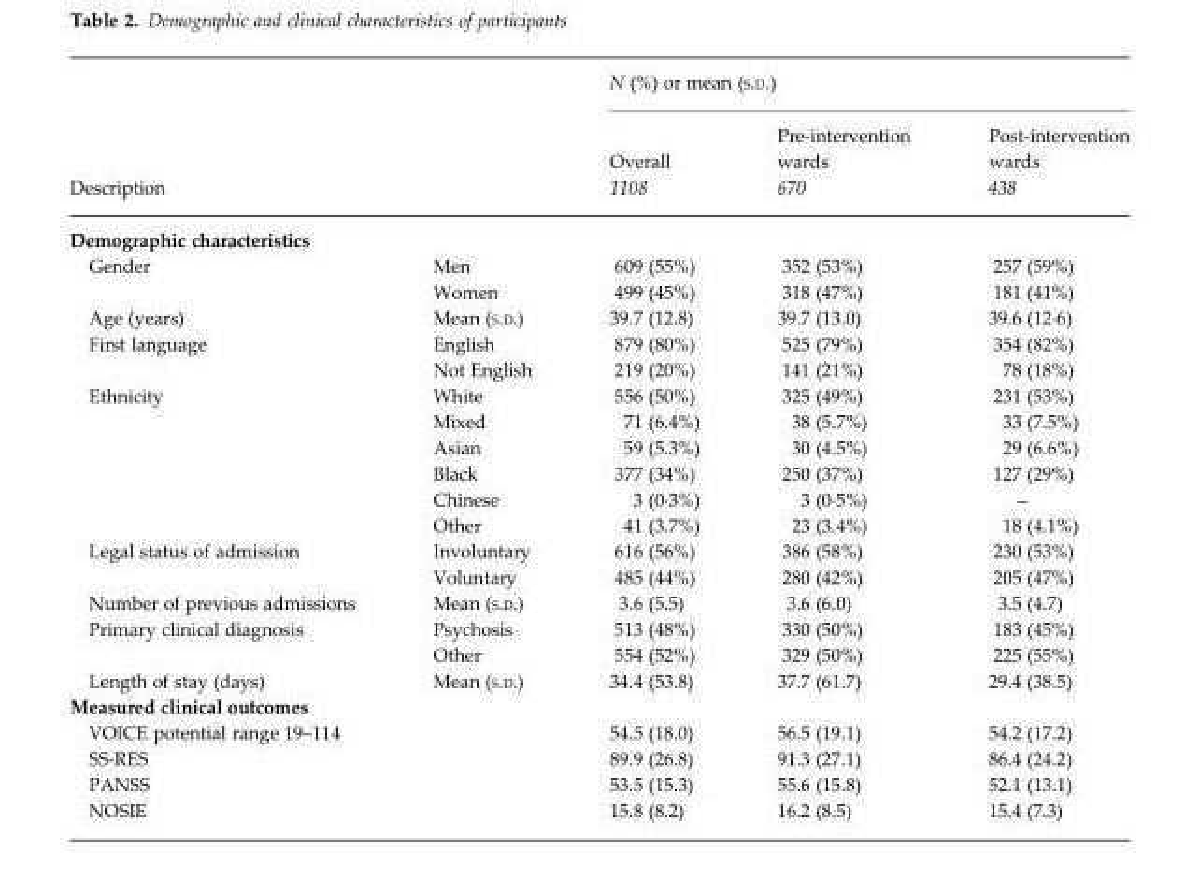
<table><thead><tr><td rowspan="3" colspan="2">Description</td><td colspan="3">N (%) or mean (S.D.)</td></tr><tr><td rowspan="3">Overall 1108</td><td rowspan="3">Pre-intervention wards 670</td><td rowspan="3">Post-intervention wards 438</td></tr><tr></tr><tr><td>Demographic characteristics</td><td></td></tr></thead><tbody><tr><td rowspan="2">Gender</td><td>Men</td><td>609 (55%)</td><td>352 (53%)</td><td>257 (59%)</td></tr><tr><td>Women</td><td>499 (45%)</td><td>318 (47%)</td><td>181 (41%)</td></tr><tr><td>Age (years)</td><td>Mean (S.D.)</td><td>39.7 (12.8)</td><td>39.7 (13.0)</td><td>39.6 (12·6)</td></tr><tr><td rowspan="2">First language</td><td>English</td><td>879 (80%)</td><td>525 (79%)</td><td>354 (82%)</td></tr><tr><td>Not English</td><td>219 (20%)</td><td>141 (21%)</td><td>78 (18%)</td></tr><tr><td rowspan="6">Ethnicity</td><td>White</td><td>556 (50%)</td><td>325 (49%)</td><td>231 (53%)</td></tr><tr><td>Mixed</td><td>71 (6.4%)</td><td>38 (5.7%)</td><td>33 (7.5%)</td></tr><tr><td>Asian</td><td>59 (5.3%)</td><td>30 (4.5%)</td><td>29 (6.6%)</td></tr><tr><td>Black</td><td>377 (34%)</td><td>250 (37%)</td><td>127 (29%)</td></tr><tr><td>Chinese</td><td>3 (0·3%)</td><td>3 (0·5%)</td><td>–</td></tr><tr><td>Other</td><td>41 (3.7%)</td><td>23 (3.4%)</td><td>18 (4.1%)</td></tr><tr><td rowspan="2">Legal status of admission</td><td>Involuntary</td><td>616 (56%)</td><td>386 (58%)</td><td>230 (53%)</td></tr><tr><td>Voluntary</td><td>485 (44%)</td><td>280 (42%)</td><td>205 (47%)</td></tr><tr><td>Number of previous admissions</td><td>Mean (S.D.)</td><td>3.6 (5.5)</td><td>3.6 (6.0)</td><td>3.5 (4.7)</td></tr><tr><td rowspan="2">Primary clinical diagnosis</td><td>Psychosis</td><td>513 (48%)</td><td>330 (50%)</td><td>183 (45%)</td></tr><tr><td>Other</td><td>554 (52%)</td><td>329 (50%)</td><td>225 (55%)</td></tr><tr><td>Length of stay (days)</td><td>Mean (S.D.)</td><td>34.4 (53.8)</td><td>37.7 (61.7)</td><td>29.4 (38.5)</td></tr><tr><td colspan="5">Measured clinical outcomes</td></tr><tr><td colspan="2">VOICE potential range 19–114</td><td>54.5 (18.0)</td><td>56.5 (19.1)</td><td>54.2 (17.2)</td></tr><tr><td colspan="2">SS-RES</td><td>89.9 (26.8)</td><td>91.3 (27.1)</td><td>86.4 (24.2)</td></tr><tr><td colspan="2">PANSS</td><td>53.5 (15.3)</td><td>55.6 (15.8)</td><td>52.1 (13.1)</td></tr><tr><td colspan="2">NOSIE</td><td>15.8 (8.2)</td><td>16.2 (8.5)</td><td>15.4 (7.3)</td></tr></tbody></table>